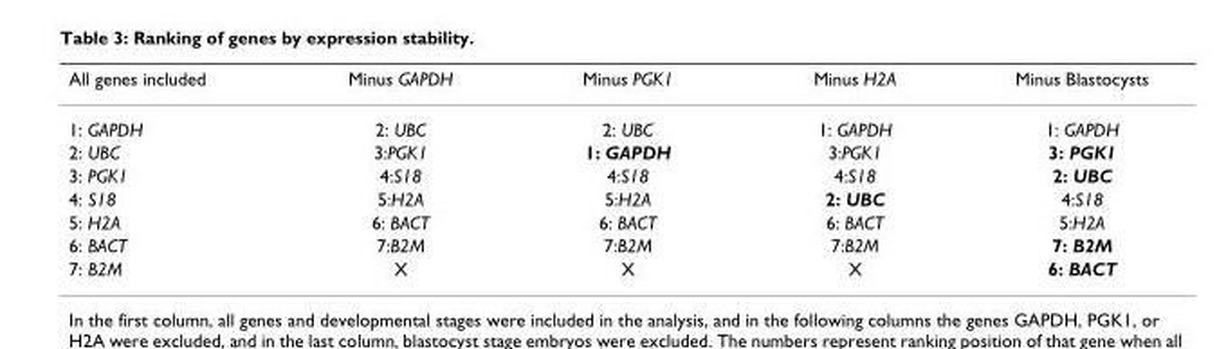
<table><thead><tr><td>All genes included</td><td>Minus GAPDH</td><td>Minus PGK1</td><td>Minus H2A</td><td>Minus Blastocysts</td></tr></thead><tbody><tr><td>1: GAPDH</td><td>2: UBC</td><td>2: UBC</td><td>1: GAPDH</td><td>1: GAPDH</td></tr><tr><td>2: UBC</td><td>3:PGK1</td><td>1: GAPDH</td><td>3:PGK1</td><td>3: PGK1</td></tr><tr><td>3: PGK1</td><td>4:S18</td><td>4:S18</td><td>4:S18</td><td>2: UBC</td></tr><tr><td>4: S18</td><td>5:H2A</td><td>5:H2A</td><td>2: UBC</td><td>4:S18</td></tr><tr><td>5: H2A</td><td>6: BACT</td><td>6: BACT</td><td>6: BACT</td><td>5:H2A</td></tr><tr><td>6: BACT</td><td>7:B2M</td><td>7:B2M</td><td>7:B2M</td><td>7: B2M</td></tr><tr><td>7: B2M</td><td>X</td><td>X</td><td>X</td><td>6: BACT</td></tr></tbody></table>